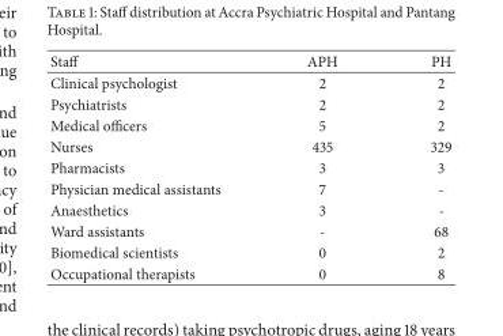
<table><thead><tr><td>Staff</td><td>APH</td><td>PH</td></tr></thead><tbody><tr><td>Clinical psychologist</td><td>2</td><td>2</td></tr><tr><td>Psychiatrists</td><td>2</td><td>2</td></tr><tr><td>Medical officers</td><td>5</td><td>2</td></tr><tr><td>Nurses</td><td>435</td><td>329</td></tr><tr><td>Pharmacists</td><td>3</td><td>3</td></tr><tr><td>Physician medical assistants</td><td>7</td><td>-</td></tr><tr><td>Anaesthetics</td><td>3</td><td>-</td></tr><tr><td>Ward assistants</td><td>-</td><td>68</td></tr><tr><td>Biomedical scientists</td><td>0</td><td>2</td></tr><tr><td>Occupational therapists</td><td>0</td><td>8</td></tr></tbody></table>